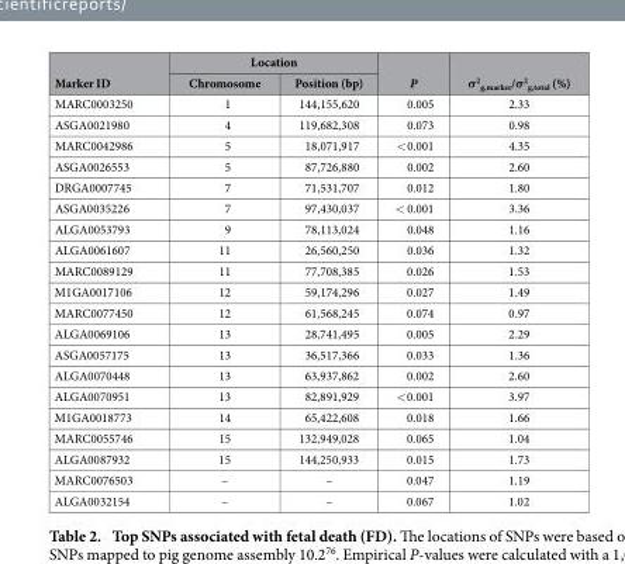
<table><thead><tr><td rowspan="2">Marker ID</td><td colspan="2">Location</td><td rowspan="2">P</td><td rowspan="2">σ<sup>2</sup> <sub>g,marker</sub>/σ<sup>2</sup> <sub>g,total</sub> (%)</td></tr><tr><td>Chromosome</td><td>Position (bp)</td></tr></thead><tbody><tr><td>MARC0003250</td><td>1</td><td>144,155,620</td><td>0.005</td><td>2.33</td></tr><tr><td>ASGA0021980</td><td>4</td><td>119,682,308</td><td>0.073</td><td>0.98</td></tr><tr><td>MARC0042986</td><td>5</td><td>18,071,917</td><td>&lt; 0.001</td><td>4.35</td></tr><tr><td>ASGA0026553</td><td>5</td><td>87,726,880</td><td>0.002</td><td>2.60</td></tr><tr><td>DRGA0007745</td><td>7</td><td>71,531,707</td><td>0.012</td><td>1.80</td></tr><tr><td>ASGA0035226</td><td>7</td><td>97,430,037</td><td>&lt; 0.001</td><td>3.36</td></tr><tr><td>ALGA0053793</td><td>9</td><td>78,113,024</td><td>0.048</td><td>1.16</td></tr><tr><td>ALGA0061607</td><td>11</td><td>26,560,250</td><td>0.036</td><td>1.32</td></tr><tr><td>MARC0089129</td><td>11</td><td>77,708,385</td><td>0.026</td><td>1.53</td></tr><tr><td>M1GA0017106</td><td>12</td><td>59,174,296</td><td>0.027</td><td>1.49</td></tr><tr><td>MARC0077450</td><td>12</td><td>61,568,245</td><td>0.074</td><td>0.97</td></tr><tr><td>ALGA0069106</td><td>13</td><td>28,741,495</td><td>0.005</td><td>2.29</td></tr><tr><td>ASGA0057175</td><td>13</td><td>36,517,366</td><td>0.033</td><td>1.36</td></tr><tr><td>ALGA0070448</td><td>13</td><td>63,937,862</td><td>0.002</td><td>2.60</td></tr><tr><td>ALGA0070951</td><td>13</td><td>82,891,929</td><td>&lt; 0.001</td><td>3.97</td></tr><tr><td>M1GA0018773</td><td>14</td><td>65,422,608</td><td>0.018</td><td>1.66</td></tr><tr><td>MARC0055746</td><td>15</td><td>132,949,028</td><td>0.065</td><td>1.04</td></tr><tr><td>ALGA0087932</td><td>15</td><td>144,250,933</td><td>0.015</td><td>1.73</td></tr><tr><td>MARC0076503</td><td>–</td><td>–</td><td>0.047</td><td>1.19</td></tr><tr><td>ALGA0032154</td><td>–</td><td>–</td><td>0.067</td><td>1.02</td></tr></tbody></table>